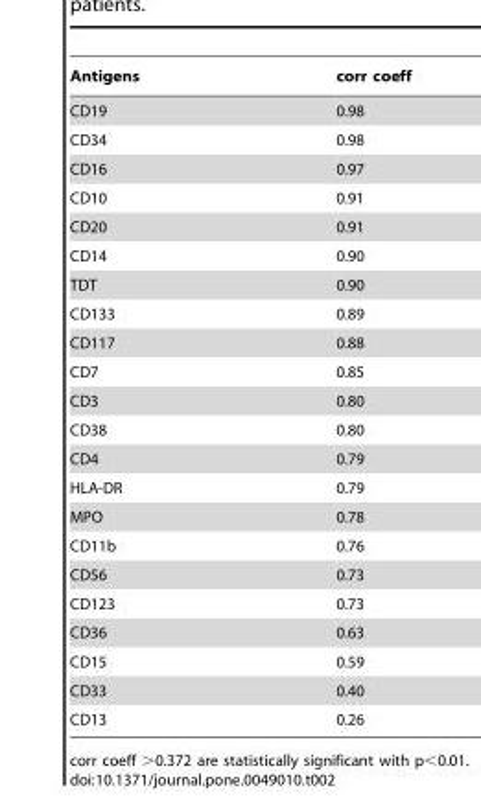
<table><thead><tr><td>Antigens</td><td>corr coeff</td></tr></thead><tbody><tr><td>CD19</td><td>0.98</td></tr><tr><td>CD34</td><td>0.98</td></tr><tr><td>CD16</td><td>0.97</td></tr><tr><td>CD10</td><td>0.91</td></tr><tr><td>CD20</td><td>0.91</td></tr><tr><td>CD14</td><td>0.90</td></tr><tr><td>TDT</td><td>0.90</td></tr><tr><td>CD133</td><td>0.89</td></tr><tr><td>CD117</td><td>0.88</td></tr><tr><td>CD7</td><td>0.85</td></tr><tr><td>CD3</td><td>0.80</td></tr><tr><td>CD38</td><td>0.80</td></tr><tr><td>CD4</td><td>0.79</td></tr><tr><td>HLA-DR</td><td>0.79</td></tr><tr><td>MPO</td><td>0.78</td></tr><tr><td>CD11b</td><td>0.76</td></tr><tr><td>CD56</td><td>0.73</td></tr><tr><td>CD123</td><td>0.73</td></tr><tr><td>CD36</td><td>0.63</td></tr><tr><td>CD15</td><td>0.59</td></tr><tr><td>CD33</td><td>0.40</td></tr><tr><td>CD13</td><td>0.26</td></tr></tbody></table>